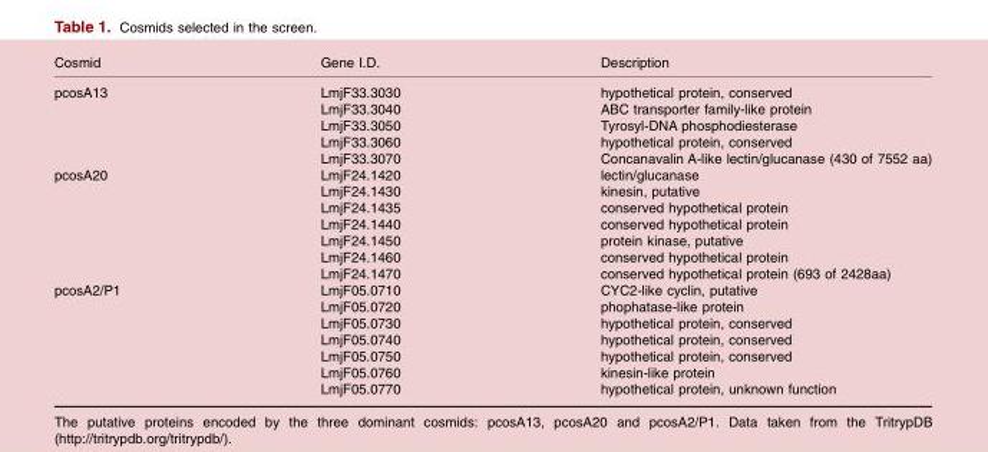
<table><thead><tr><td>Cosmid</td><td>Gene I.D.</td><td>Description</td></tr></thead><tbody><tr><td rowspan="5">pcosA13</td><td>LmjF33.3030</td><td>hypothetical protein, conserved</td></tr><tr><td>LmjF33.3040</td><td>ABC transporter family-like protein</td></tr><tr><td>LmjF33.3050</td><td>Tyrosyl-DNA phosphodiesterase</td></tr><tr><td>LmjF33.3060</td><td>hypothetical protein, conserved</td></tr><tr><td>LmjF33.3070</td><td>Concanavalin A-like lectin/glucanase (430 of 7552 aa)</td></tr><tr><td rowspan="7">pcosA20</td><td>LmjF24.1420</td><td>lectin/glucanase</td></tr><tr><td>LmjF24.1430</td><td>kinesin, putative</td></tr><tr><td>LmjF24.1435</td><td>conserved hypothetical protein</td></tr><tr><td>LmjF24.1440</td><td>conserved hypothetical protein</td></tr><tr><td>LmjF24.1450</td><td>protein kinase, putative</td></tr><tr><td>LmjF24.1460</td><td>conserved hypothetical protein</td></tr><tr><td>LmjF24.1470</td><td>conserved hypothetical protein (693 of 2428aa)</td></tr><tr><td rowspan="7">pcosA2/P1</td><td>LmjF05.0710</td><td>CYC2-like cyclin, putative</td></tr><tr><td>LmjF05.0720</td><td>phophatase-like protein</td></tr><tr><td>LmjF05.0730</td><td>hypothetical protein, conserved</td></tr><tr><td>LmjF05.0740</td><td>hypothetical protein, conserved</td></tr><tr><td>LmjF05.0750</td><td>hypothetical protein, conserved</td></tr><tr><td>LmjF05.0760</td><td>kinesin-like protein</td></tr><tr><td>LmjF05.0770</td><td>hypothetical protein, unknown function</td></tr></tbody></table>